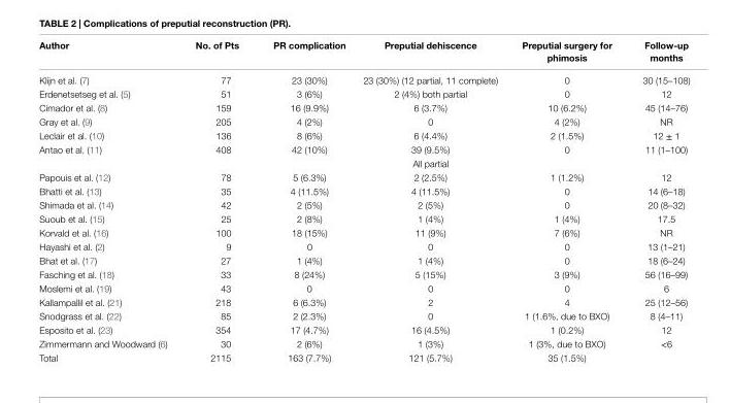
<table><thead><tr><td>author</td><td>no. of Pts</td><td>Pr complication</td><td>Preputial dehiscence</td><td>Preputial surgery for phimosis</td><td>Follow-up months</td></tr></thead><tbody><tr><td>Klijn et al. (7)</td><td>77</td><td>23 (30%)</td><td>23 (30%) (12 partial, 11 complete)</td><td>0</td><td>30 (15–108)</td></tr><tr><td>Erdenetsetseg et al. (5)</td><td>51</td><td>3 (6%)</td><td>2 (4%) both partial</td><td>0</td><td>12</td></tr><tr><td>Cimador et al. (8)</td><td>159</td><td>16 (9.9%)</td><td>6 (3.7%)</td><td>10 (6.2%)</td><td>45 (14–76)</td></tr><tr><td>Gray et al. (9)</td><td>205</td><td>4 (2%)</td><td>0</td><td>4 (2%)</td><td>NR</td></tr><tr><td>Leclair et al. (10)</td><td>136</td><td>8 (6%)</td><td>6 (4.4%)</td><td>2 (1.5%)</td><td>12 ± 1</td></tr><tr><td rowspan="2">Antao et al. (11)</td><td rowspan="2">408</td><td rowspan="2">42 (10%)</td><td>39 (9.5%)</td><td rowspan="2">0</td><td rowspan="2">11 (1–100)</td></tr><tr><td>All partial</td></tr><tr><td>Papouis et al. (12)</td><td>78</td><td>5 (6.3%)</td><td>2 (2.5%)</td><td>1 (1.2%)</td><td>12</td></tr><tr><td>Bhatti et al. (13)</td><td>35</td><td>4 (11.5%)</td><td>4 (11.5%)</td><td>0</td><td>14 (6–18)</td></tr><tr><td>Shimada et al. (14)</td><td>42</td><td>2 (5%)</td><td>2 (5%)</td><td>0</td><td>20 (8–32)</td></tr><tr><td>Suoub et al. (15)</td><td>25</td><td>2 (8%)</td><td>1 (4%)</td><td>1 (4%)</td><td>17.5</td></tr><tr><td>Korvald et al. (16)</td><td>100</td><td>18 (15%)</td><td>11 (9%)</td><td>7 (6%)</td><td>NR</td></tr><tr><td>Hayashi et al. (2)</td><td>9</td><td>0</td><td>0</td><td>0</td><td>13 (1–21)</td></tr><tr><td>Bhat et al. (17)</td><td>27</td><td>1 (4%)</td><td>1 (4%)</td><td>0</td><td>18 (6–24)</td></tr><tr><td>Fasching et al. (18)</td><td>33</td><td>8 (24%)</td><td>5 (15%)</td><td>3 (9%)</td><td>56 (16–99)</td></tr><tr><td>Moslemi et al. (19)</td><td>43</td><td>0</td><td>0</td><td>0</td><td>6</td></tr><tr><td>Kallampallil et al. (21)</td><td>218</td><td>6 (6.3%)</td><td>2</td><td>4</td><td>25 (12–56)</td></tr><tr><td>Snodgrass et al. (22)</td><td>85</td><td>2 (2.3%)</td><td>0</td><td>1 (1.6%, due to BXO)</td><td>8 (4–11)</td></tr><tr><td>Esposito et al. (23)</td><td>354</td><td>17 (4.7%)</td><td>16 (4.5%)</td><td>1 (0.2%)</td><td>12</td></tr><tr><td>Zimmermann and Woodward (6)</td><td>30</td><td>2 (6%)</td><td>1 (3%)</td><td>1 (3%, due to BXO)</td><td>&lt;6</td></tr><tr><td>Total</td><td>2115</td><td>163 (7.7%)</td><td>121 (5.7%)</td><td>35 (1.5%)</td><td></td></tr></tbody></table>